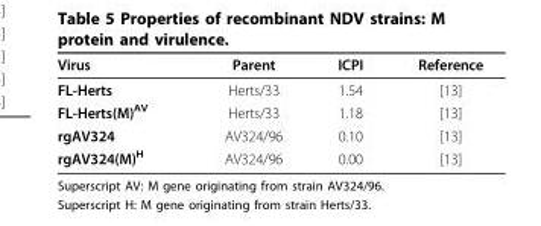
<table><thead><tr><td>Virus</td><td>Parent</td><td>ICPI</td><td>Reference</td></tr></thead><tbody><tr><td>FL-Herts</td><td>Herts/33</td><td>1.54</td><td>[13]</td></tr><tr><td>FL-Herts(M)<sup>AV</sup></td><td>Herts/33</td><td>1.18</td><td>[13]</td></tr><tr><td>rgAV324</td><td>AV324/96</td><td>0.10</td><td>[13]</td></tr><tr><td>rgAV324(M)<sup>H</sup></td><td>AV324/96</td><td>0.00</td><td>[13]</td></tr></tbody></table>